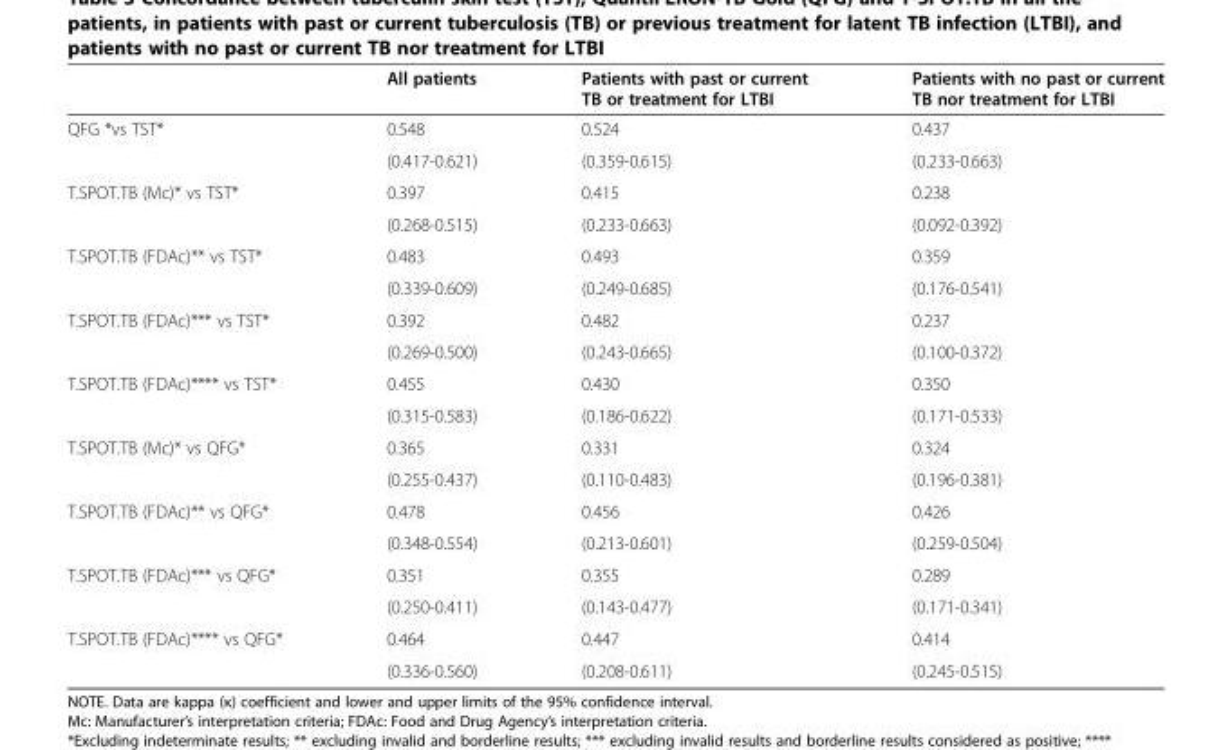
<table><thead><tr><td></td><td>All patients</td><td>Patients with past or current TB or treatment for LTBI</td><td>Patients with no past or current TB nor treatment for LTBI</td></tr></thead><tbody><tr><td rowspan="2">QFG *vs TST*</td><td>0.548</td><td>0.524</td><td>0.437</td></tr><tr><td>(0.417-0.621)</td><td>(0.359-0.615)</td><td>(0.233-0.663)</td></tr><tr><td rowspan="2">T.SPOT.TB (Mc)* vs TST*</td><td>0.397</td><td>0.415</td><td>0.238</td></tr><tr><td>(0.268-0.515)</td><td>(0.233-0.663)</td><td>(0.092-0.392)</td></tr><tr><td rowspan="2">T.SPOT.TB (FDAc)** vs TST*</td><td>0.483</td><td>0.493</td><td>0.359</td></tr><tr><td>(0.339-0.609)</td><td>(0.249-0.685)</td><td>(0.176-0.541)</td></tr><tr><td rowspan="2">T.SPOT.TB (FDAc)*** vs TST*</td><td>0.392</td><td>0.482</td><td>0.237</td></tr><tr><td>(0.269-0.500)</td><td>(0.243-0.665)</td><td>(0.100-0.372)</td></tr><tr><td rowspan="2">T.SPOT.TB (FDAc)**** vs TST*</td><td>0.455</td><td>0.430</td><td>0.350</td></tr><tr><td>(0.315-0.583)</td><td>(0.186-0.622)</td><td>(0.171-0.533)</td></tr><tr><td rowspan="2">T.SPOT.TB (Mc)* vs QFG*</td><td>0.365</td><td>0.331</td><td>0.324</td></tr><tr><td>(0.255-0.437)</td><td>(0.110-0.483)</td><td>(0.196-0.381)</td></tr><tr><td rowspan="2">T.SPOT.TB (FDAc)** vs QFG*</td><td>0.478</td><td>0.456</td><td>0.426</td></tr><tr><td>(0.348-0.554)</td><td>(0.213-0.601)</td><td>(0.259-0.504)</td></tr><tr><td rowspan="2">T.SPOT.TB (FDAc)*** vs QFG*</td><td>0.351</td><td>0.355</td><td>0.289</td></tr><tr><td>(0.250-0.411)</td><td>(0.143-0.477)</td><td>(0.171-0.341)</td></tr><tr><td rowspan="2">T.SPOT.TB (FDAc)**** vs QFG*</td><td>0.464</td><td>0.447</td><td>0.414</td></tr><tr><td>(0.336-0.560)</td><td>(0.208-0.611)</td><td>(0.245-0.515)</td></tr></tbody></table>